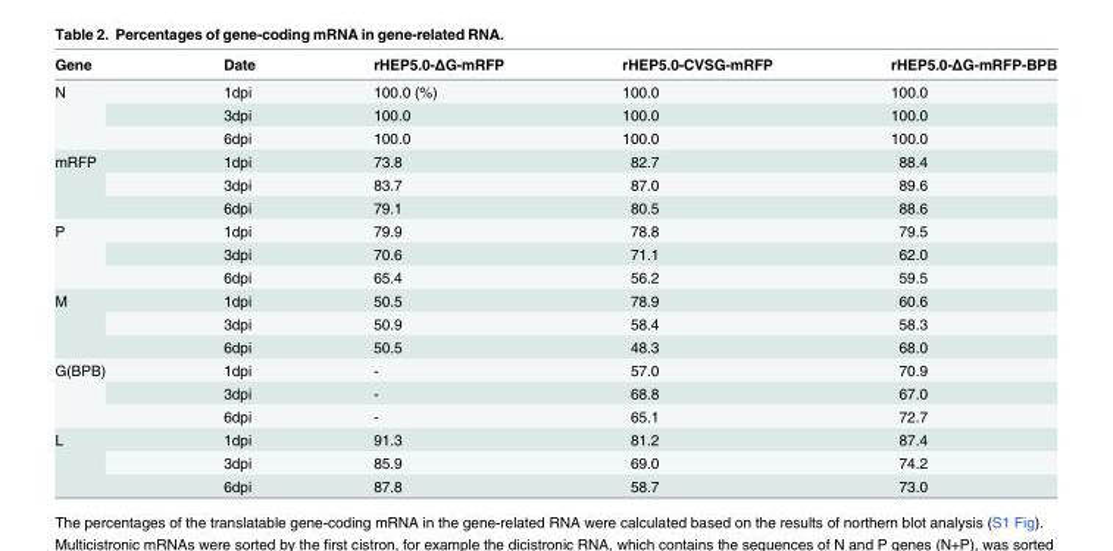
<table><thead><tr><td>Gene</td><td>Date</td><td>rHEP5.0-ΔG-mRFP</td><td>rHEP5.0-CVSG-mRFP</td><td>rHEP5.0-ΔG-mRFP-BPB</td></tr></thead><tbody><tr><td rowspan="3">N</td><td>1dpi</td><td>100.0 (%)</td><td>100.0</td><td>100.0</td></tr><tr><td>3dpi</td><td>100.0</td><td>100.0</td><td>100.0</td></tr><tr><td>6dpi</td><td>100.0</td><td>100.0</td><td>100.0</td></tr><tr><td rowspan="3">mRFP</td><td>1dpi</td><td>73.8</td><td>82.7</td><td>88.4</td></tr><tr><td>3dpi</td><td>83.7</td><td>87.0</td><td>89.6</td></tr><tr><td>6dpi</td><td>79.1</td><td>80.5</td><td>88.6</td></tr><tr><td rowspan="3">P</td><td>1dpi</td><td>79.9</td><td>78.8</td><td>79.5</td></tr><tr><td>3dpi</td><td>70.6</td><td>71.1</td><td>62.0</td></tr><tr><td>6dpi</td><td>65.4</td><td>56.2</td><td>59.5</td></tr><tr><td rowspan="3">M</td><td>1dpi</td><td>50.5</td><td>78.9</td><td>60.6</td></tr><tr><td>3dpi</td><td>50.9</td><td>58.4</td><td>58.3</td></tr><tr><td>6dpi</td><td>50.5</td><td>48.3</td><td>68.0</td></tr><tr><td rowspan="3">G(BPB)</td><td>1dpi</td><td>-</td><td>57.0</td><td>70.9</td></tr><tr><td>3dpi</td><td>-</td><td>68.8</td><td>67.0</td></tr><tr><td>6dpi</td><td>-</td><td>65.1</td><td>72.7</td></tr><tr><td rowspan="3">L</td><td>1dpi</td><td>91.3</td><td>81.2</td><td>87.4</td></tr><tr><td>3dpi</td><td>85.9</td><td>69.0</td><td>74.2</td></tr><tr><td>6dpi</td><td>87.8</td><td>58.7</td><td>73.0</td></tr></tbody></table>